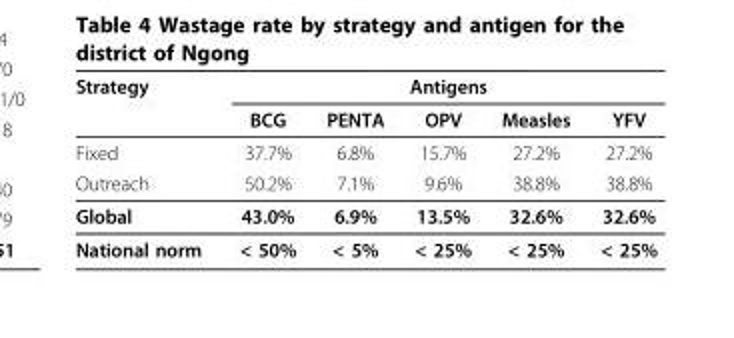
<table><thead><tr><td rowspan="2">Strategy</td><td colspan="5">Antigens</td></tr><tr><td>BCG</td><td>PENTA</td><td>OPV</td><td>Measles</td><td>YFV</td></tr></thead><tbody><tr><td>Fixed</td><td>37.7%</td><td>6.8%</td><td>15.7%</td><td>27.2%</td><td>27.2%</td></tr><tr><td>Outreach</td><td>50.2%</td><td>7.1%</td><td>9.6%</td><td>38.8%</td><td>38.8%</td></tr><tr><td>Global</td><td>43.0%</td><td>6.9%</td><td>13.5%</td><td>32.6%</td><td>32.6%</td></tr><tr><td>National norm</td><td>&lt; 50%</td><td>&lt; 5%</td><td>&lt; 25%</td><td>&lt; 25%</td><td>&lt; 25%</td></tr></tbody></table>